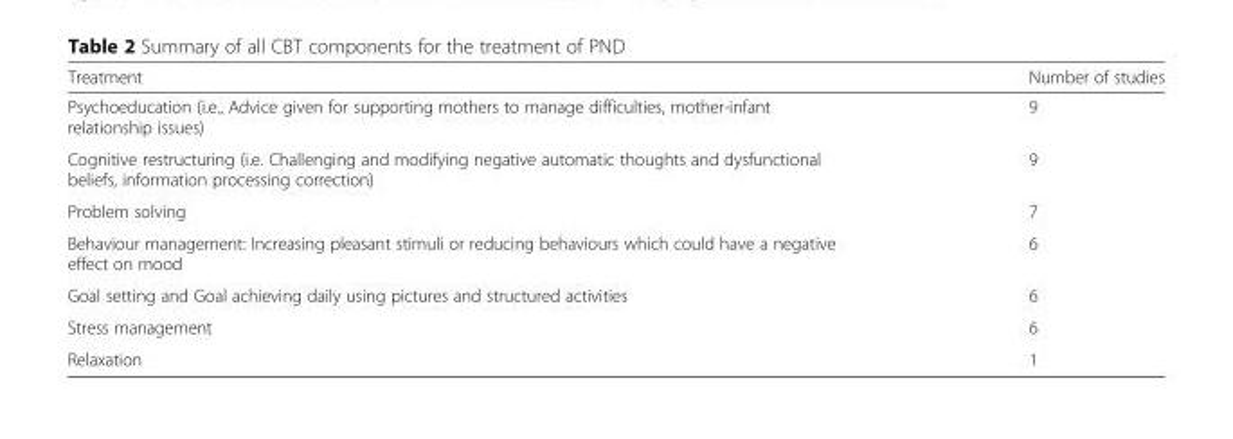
<table><thead><tr><td>Treatment</td><td>Number of studies</td></tr></thead><tbody><tr><td>Psychoeducation (i.e., Advice given for supporting mothers to manage difficulties, mother-infant relationship issues)</td><td>9</td></tr><tr><td>Cognitive restructuring (i.e. Challenging and modifying negative automatic thoughts and dysfunctional beliefs, information processing correction)</td><td>9</td></tr><tr><td>Problem solving</td><td>7</td></tr><tr><td>Behaviour management: Increasing pleasant stimuli or reducing behaviours which could have a negative effect on mood</td><td>6</td></tr><tr><td>Goal setting and Goal achieving daily using pictures and structured activities</td><td>6</td></tr><tr><td>Stress management</td><td>6</td></tr><tr><td>Relaxation</td><td>1</td></tr></tbody></table>